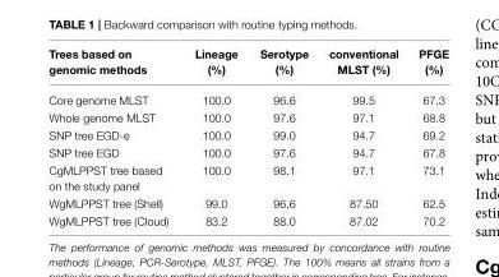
<table><thead><tr><td>Trees based on genomic methods</td><td>Lineage (%)</td><td>Serotype (%)</td><td>conventional MLST (%)</td><td>PFGE (%)</td></tr></thead><tbody><tr><td>Core genome MLST</td><td>100.0</td><td>96.6</td><td>99.5</td><td>67.3</td></tr><tr><td>Whole genome MLST</td><td>100.0</td><td>97.6</td><td>97.1</td><td>68.8</td></tr><tr><td>SNP tree EGD-e</td><td>100.0</td><td>99.0</td><td>94.7</td><td>69.2</td></tr><tr><td>SNP tree EGD</td><td>100.0</td><td>97.6</td><td>94.7</td><td>67.8</td></tr><tr><td>CgMLPPST tree based on the study panel</td><td>100.0</td><td>98.1</td><td>97.1</td><td>73.1</td></tr><tr><td>WgMLPPST tree (Shell)</td><td>99.0</td><td>96.6</td><td>87.50</td><td>62.5</td></tr><tr><td>WgMLPPST tree (Cloud)</td><td>83.2</td><td>88.0</td><td>87.02</td><td>70.2</td></tr></tbody></table>